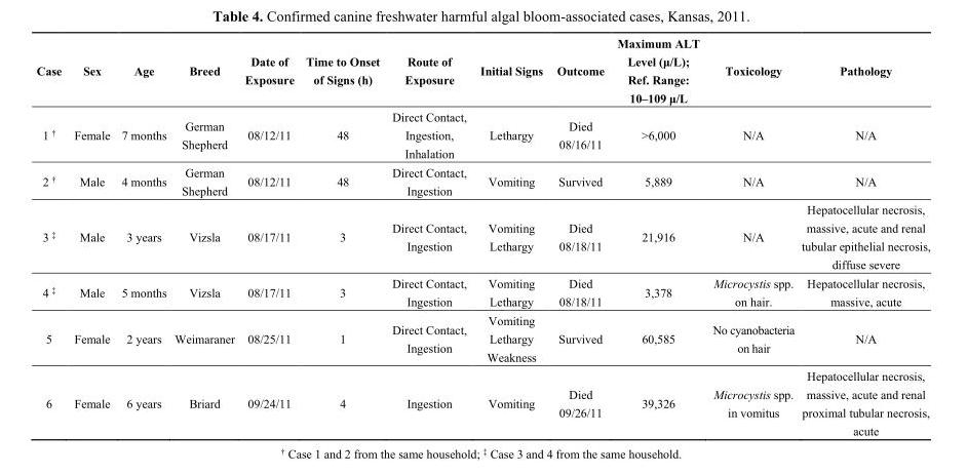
<table><thead><tr><td>Case</td><td>Sex</td><td>Age</td><td>Breed</td><td>Date of Exposure</td><td>Time to Onset of Signs (h)</td><td>Route of Exposure</td><td>Initial Signs</td><td>Outcome</td><td>Maximum ALT Level (μ/L); Ref. Range: 10–109 μ/L</td><td>Toxicology</td><td>Pathology</td></tr></thead><tbody><tr><td>1 <sup>†</sup></td><td>Female</td><td>7 months</td><td>German Shepherd</td><td>08/12/11</td><td>48</td><td>Direct Contact, Ingestion, Inhalation</td><td>Lethargy</td><td>Died 08/16/11</td><td>&gt;6,000</td><td>N/A</td><td>N/A</td></tr><tr><td>2 <sup>†</sup></td><td>Male</td><td>4 months</td><td>German Shepherd</td><td>08/12/11</td><td>48</td><td>Direct Contact, Ingestion</td><td>Vomiting</td><td>Survived</td><td>5,889</td><td>N/A</td><td>N/A</td></tr><tr><td>3 <sup>‡</sup></td><td>Male</td><td>3 years</td><td>Vizsla</td><td>08/17/11</td><td>3</td><td>Direct Contact, Ingestion</td><td>Vomiting Lethargy</td><td>Died 08/18/11</td><td>21,916</td><td>N/A</td><td>Hepatocellular necrosis, massive, acute and renal tubular epithelial necrosis, diffuse severe</td></tr><tr><td>4 <sup>‡</sup></td><td>Male</td><td>5 months</td><td>Vizsla</td><td>08/17/11</td><td>3</td><td>Direct Contact, Ingestion</td><td>Vomiting Lethargy</td><td>Died 08/18/11</td><td>3,378</td><td>Microcystis spp. on hair.</td><td>Hepatocellular necrosis, massive, acute</td></tr><tr><td>5</td><td>Female</td><td>2 years</td><td>Weimaraner</td><td>08/25/11</td><td>1</td><td>Direct Contact, Ingestion</td><td>Vomiting Lethargy Weakness</td><td>Survived</td><td>60,585</td><td>No cyanobacteria on hair</td><td>N/A</td></tr><tr><td>6</td><td>Female</td><td>6 years</td><td>Briard</td><td>09/24/11</td><td>4</td><td>Ingestion</td><td>Vomiting</td><td>Died 09/26/11</td><td>39,326</td><td>Microcystis spp. in vomitus</td><td>Hepatocellular necrosis, massive, acute and renal proximal tubular necrosis, acute</td></tr></tbody></table>